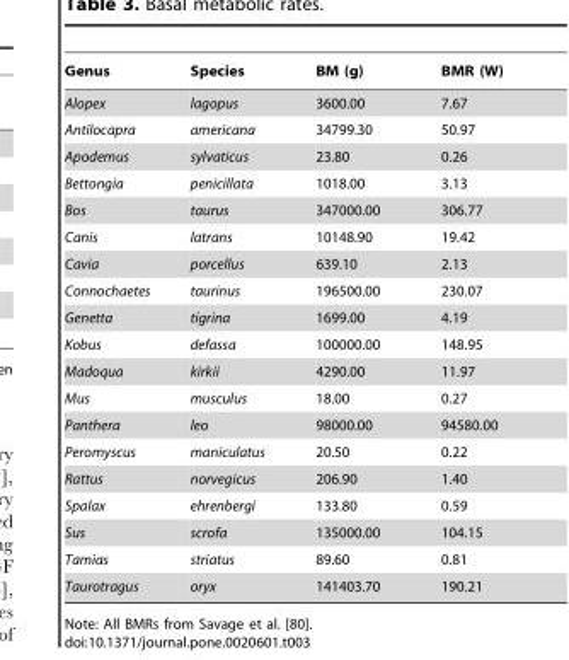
<table><thead><tr><td>Genus</td><td>Species</td><td>BM (g)</td><td>BMR (W)</td></tr></thead><tbody><tr><td>Alopex</td><td>lagopus</td><td>3600.00</td><td>7.67</td></tr><tr><td>Antilocapra</td><td>americana</td><td>34799.30</td><td>50.97</td></tr><tr><td>Apodemus</td><td>sylvaticus</td><td>23.80</td><td>0.26</td></tr><tr><td>Bettongia</td><td>penicillata</td><td>1018.00</td><td>3.13</td></tr><tr><td>Bos</td><td>taurus</td><td>347000.00</td><td>306.77</td></tr><tr><td>Canis</td><td>latrans</td><td>10148.90</td><td>19.42</td></tr><tr><td>Cavia</td><td>porcellus</td><td>639.10</td><td>2.13</td></tr><tr><td>Connochaetes</td><td>taurinus</td><td>196500.00</td><td>230.07</td></tr><tr><td>Genetta</td><td>tigrina</td><td>1699.00</td><td>4.19</td></tr><tr><td>Kobus</td><td>defassa</td><td>100000.00</td><td>148.95</td></tr><tr><td>Madoqua</td><td>kirkii</td><td>4290.00</td><td>11.97</td></tr><tr><td>Mus</td><td>musculus</td><td>18.00</td><td>0.27</td></tr><tr><td>Panthera</td><td>leo</td><td>98000.00</td><td>94580.00</td></tr><tr><td>Peromyscus</td><td>maniculatus</td><td>20.50</td><td>0.22</td></tr><tr><td>Rattus</td><td>norvegicus</td><td>206.90</td><td>1.40</td></tr><tr><td>Spalax</td><td>ehrenbergi</td><td>133.80</td><td>0.59</td></tr><tr><td>Sus</td><td>scrofa</td><td>135000.00</td><td>104.15</td></tr><tr><td>Tamias</td><td>striatus</td><td>89.60</td><td>0.81</td></tr><tr><td>Taurotragus</td><td>oryx</td><td>141403.70</td><td>190.21</td></tr></tbody></table>